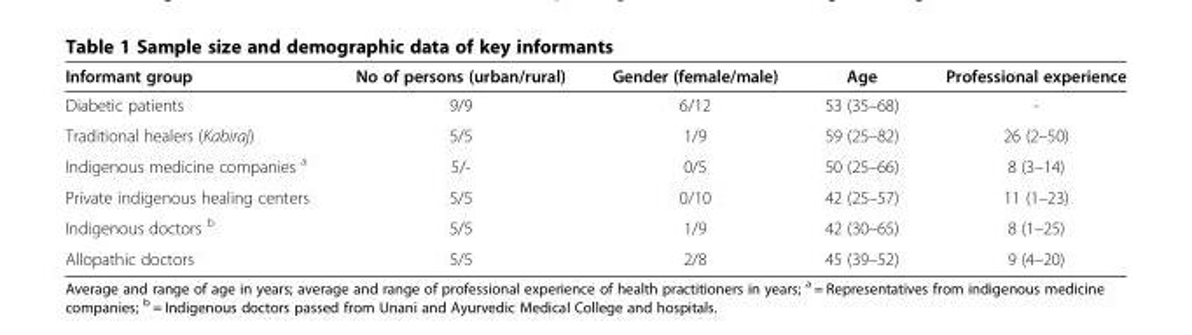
<table><thead><tr><td>Informant group</td><td>No of persons (urban/rural)</td><td>Gender (female/male)</td><td>Age</td><td>Professional experience</td></tr></thead><tbody><tr><td>Diabetic patients</td><td>9/9</td><td>6/12</td><td>53 (35–68)</td><td>-</td></tr><tr><td>Traditional healers (Kabiraj)</td><td>5/5</td><td>1/9</td><td>59 (25–82)</td><td>26 (2–50)</td></tr><tr><td>Indigenous medicine companies <sup>a</sup></td><td>5/-</td><td>0/5</td><td>50 (25–66)</td><td>8 (3–14)</td></tr><tr><td>Private indigenous healing centers</td><td>5/5</td><td>0/10</td><td>42 (25–57)</td><td>11 (1–23)</td></tr><tr><td>Indigenous doctors <sup>b</sup></td><td>5/5</td><td>1/9</td><td>42 (30–65)</td><td>8 (1–25)</td></tr><tr><td>Allopathic doctors</td><td>5/5</td><td>2/8</td><td>45 (39–52)</td><td>9 (4–20)</td></tr></tbody></table>